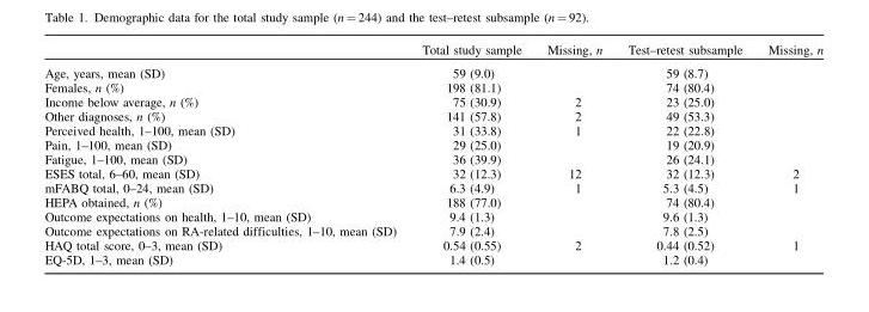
<table><thead><tr><td></td><td>Total study sample</td><td>Missing, n</td><td>Test–retest subsample</td><td>Missing, n</td></tr></thead><tbody><tr><td>Age, years, mean (SD)</td><td>59 (9.0)</td><td></td><td>59 (8.7)</td><td></td></tr><tr><td>Females, n (%)</td><td>198 (81.1)</td><td></td><td>74 (80.4)</td><td></td></tr><tr><td>Income below average, n (%)</td><td>75 (30.9)</td><td>2</td><td>23 (25.0)</td><td></td></tr><tr><td>Other diagnoses, n (%)</td><td>141 (57.8)</td><td>2</td><td>49 (53.3)</td><td></td></tr><tr><td>Perceived health, 1–100, mean (SD)</td><td>31 (33.8)</td><td>1</td><td>22 (22.8)</td><td></td></tr><tr><td>Pain, 1–100, mean (SD)</td><td>29 (25.0)</td><td></td><td>19 (20.9)</td><td></td></tr><tr><td>Fatigue, 1–100, mean (SD)</td><td>36 (39.9)</td><td></td><td>26 (24.1)</td><td></td></tr><tr><td>ESES total, 6–60, mean (SD)</td><td>32 (12.3)</td><td>12</td><td>32 (12.3)</td><td>2</td></tr><tr><td>mFABQ total, 0–24, mean (SD)</td><td>6.3 (4.9)</td><td>1</td><td>5.3 (4.5)</td><td>1</td></tr><tr><td>HEPA obtained, n (%)</td><td>188 (77.0)</td><td></td><td>74 (80.4)</td><td></td></tr><tr><td>Outcome expectations on health, 1–10, mean (SD)</td><td>9.4 (1.3)</td><td></td><td>9.6 (1.3)</td><td></td></tr><tr><td>Outcome expectations on RA-related difficulties, 1–10, mean (SD)</td><td>7.9 (2.4)</td><td></td><td>7.8 (2.5)</td><td></td></tr><tr><td>HAQ total score, 0–3, mean (SD)</td><td>0.54 (0.55)</td><td>2</td><td>0.44 (0.52)</td><td>1</td></tr><tr><td>EQ-5D, 1–3, mean (SD)</td><td>1.4 (0.5)</td><td></td><td>1.2 (0.4)</td><td></td></tr></tbody></table>